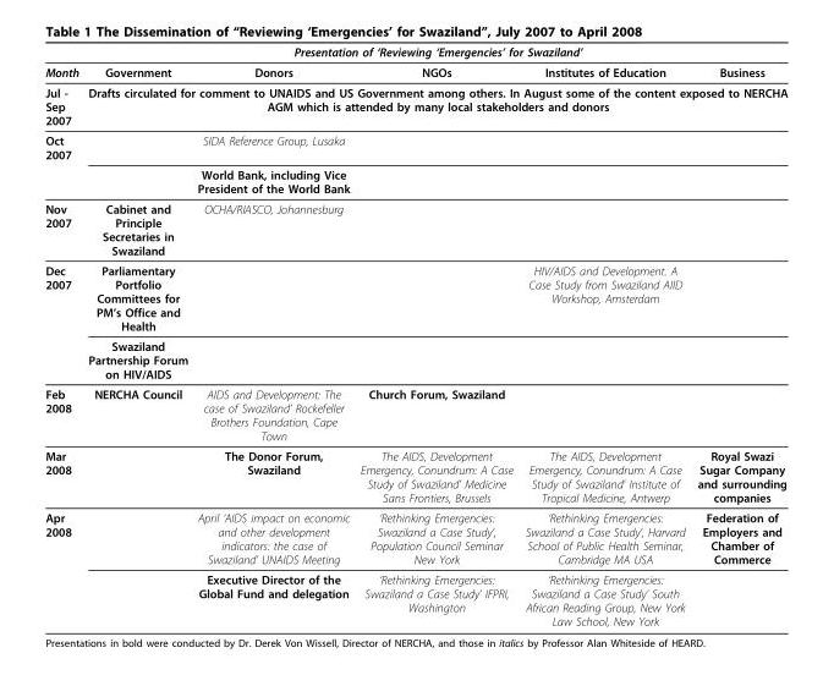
<table><thead><tr><td rowspan="2">Month</td><td colspan="5">Presentation of ‘Reviewing ‘Emergencies’ for Swaziland’</td></tr><tr><td>Government</td><td>Donors</td><td>NGOs</td><td>Institutes of Education</td><td>Business</td></tr></thead><tbody><tr><td>Jul - Sep 2007</td><td colspan="5">Drafts circulated for comment to UNAIDS and US Government among others. In August some of the content exposed to NERCHA AGM which is attended by many local stakeholders and donors</td></tr><tr><td rowspan="2">Oct 2007</td><td></td><td>SIDA Reference Group, Lusaka</td><td></td><td></td><td></td></tr><tr><td></td><td>World Bank, including Vice President of the World Bank</td><td></td><td></td><td></td></tr><tr><td>Nov 2007</td><td>Cabinet and Principle Secretaries in Swaziland</td><td>OCHA/RIASCO, Johannesburg</td><td></td><td></td><td></td></tr><tr><td rowspan="2">Dec 2007</td><td>Parliamentary Portfolio Committees for PM’s Office and Health</td><td></td><td></td><td>HIV/AIDS and Development. A Case Study from Swaziland AIID Workshop, Amsterdam</td><td></td></tr><tr><td>Swaziland Partnership Forum on HIV/AIDS</td><td></td><td></td><td></td><td></td></tr><tr><td>Feb 2008</td><td>NERCHA Council</td><td>AIDS and Development: The case of Swaziland’ Rockefeller Brothers Foundation, Cape Town</td><td>Church Forum, Swaziland</td><td></td><td></td></tr><tr><td>Mar 2008</td><td></td><td>The Donor Forum, Swaziland</td><td>The AIDS, Development Emergency, Conundrum: A Case Study of Swaziland’ Medicine Sans Frontiers, Brussels</td><td>The AIDS, Development Emergency, Conundrum: A Case Study of Swaziland’ Institute of Tropical Medicine, Antwerp</td><td>Royal Swazi Sugar Company and surrounding companies</td></tr><tr><td rowspan="2">Apr 2008</td><td></td><td>April ‘AIDS impact on economic and other development indicators: the case of Swaziland’ UNAIDS Meeting</td><td>‘Rethinking Emergencies: Swaziland a Case Study’, Population Council Seminar New York</td><td>‘Rethinking Emergencies: Swaziland a Case Study’, Harvard School of Public Health Seminar, Cambridge MA USA</td><td>Federation of Employers and Chamber of Commerce</td></tr><tr><td></td><td>Executive Director of the Global Fund and delegation</td><td>‘Rethinking Emergencies: Swaziland a Case Study’ IFPRI, Washington</td><td>‘Rethinking Emergencies: Swaziland a Case Study’ South African Reading Group, New York Law School, New York</td><td></td></tr></tbody></table>